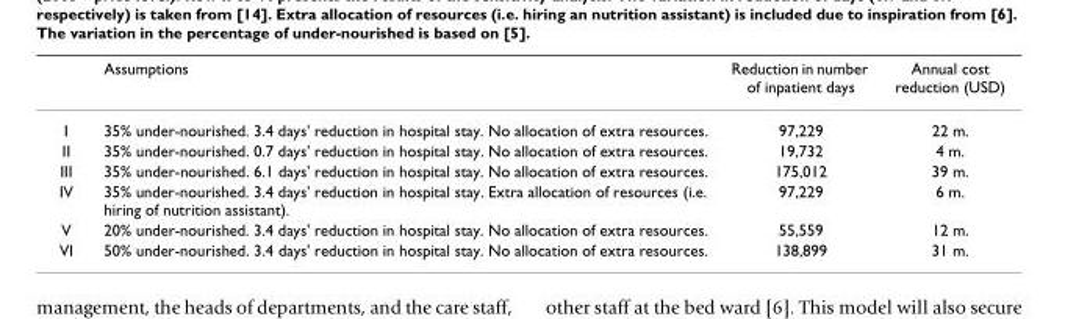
<table><thead><tr><td></td><td>Assumptions</td><td>Reduction in number of inpatient days</td><td>Annual cost reduction (USD)</td></tr></thead><tbody><tr><td>I</td><td>35% under-nourished. 3.4 days&#x27; reduction in hospital stay. No allocation of extra resources.</td><td>97,229</td><td>22 m.</td></tr><tr><td>II</td><td>35% under-nourished. 0.7 days&#x27; reduction in hospital stay. No allocation of extra resources.</td><td>19,732</td><td>4 m.</td></tr><tr><td>III</td><td>35% under-nourished. 6.1 days&#x27; reduction in hospital stay. No allocation of extra resources.</td><td>175,012</td><td>39 m.</td></tr><tr><td>IV</td><td>35% under-nourished. 3.4 days&#x27; reduction in hospital stay. Extra allocation of resources (i.e. hiring of nutrition assistant).</td><td>97,229</td><td>6 m.</td></tr><tr><td>V</td><td>20% under-nourished. 3.4 days&#x27; reduction in hospital stay. No allocation of extra resources.</td><td>55,559</td><td>12 m.</td></tr><tr><td>VI</td><td>50% under-nourished. 3.4 days&#x27; reduction in hospital stay. No allocation of extra resources.</td><td>138,899</td><td>31 m.</td></tr></tbody></table>